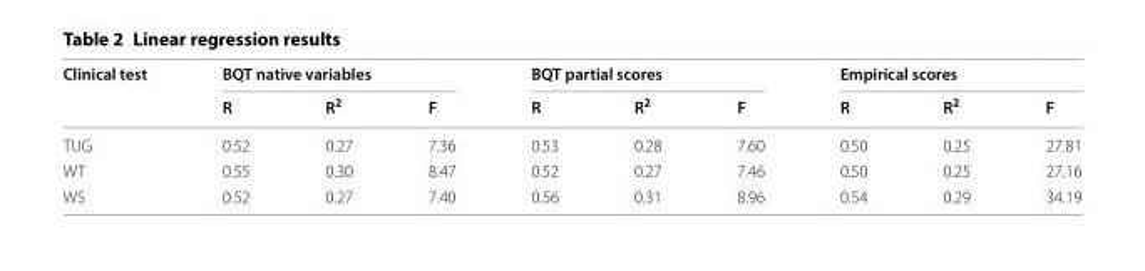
<table><thead><tr><td rowspan="2">Clinical test</td><td colspan="3">BQT native variables</td><td colspan="3">BQT partial scores</td><td colspan="3">Empirical scores</td></tr><tr><td>R</td><td>R<sup>2</sup></td><td>F</td><td>R</td><td>R<sup>2</sup></td><td>F</td><td>R</td><td>R<sup>2</sup></td><td>F</td></tr></thead><tbody><tr><td>TUG</td><td>0.52</td><td>0.27</td><td>7.36</td><td>0.53</td><td>0.28</td><td>7.60</td><td>0.50</td><td>0.25</td><td>27.81</td></tr><tr><td>WT</td><td>0.55</td><td>0.30</td><td>8.47</td><td>0.52</td><td>0.27</td><td>7.46</td><td>0.50</td><td>0.25</td><td>27.16</td></tr><tr><td>WS</td><td>0.52</td><td>0.27</td><td>7.40</td><td>0.56</td><td>0.31</td><td>8.96</td><td>0.54</td><td>0.29</td><td>34.19</td></tr></tbody></table>